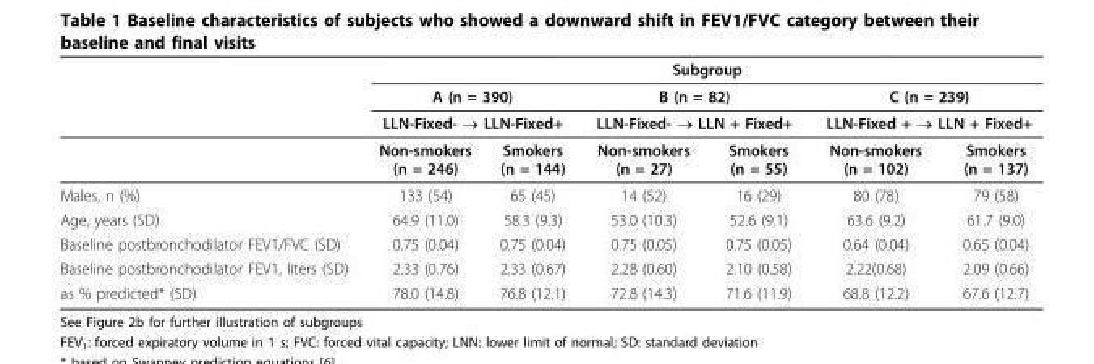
<table><thead><tr><td rowspan="4"></td><td colspan="6">Subgroup</td></tr><tr><td rowspan="2" colspan="2">A (n = 390) LLN-Fixed- → LLN-Fixed+</td><td rowspan="2" colspan="2">B (n = 82) LLN-Fixed- → LLN + Fixed+</td><td rowspan="2" colspan="2">C (n = 239) LLN-Fixed + → LLN + Fixed+</td></tr><tr></tr><tr><td>Non-smokers (n = 246)</td><td>Smokers (n = 144)</td><td>Non-smokers (n = 27)</td><td>Smokers (n = 55)</td><td>Non-smokers (n = 102)</td><td>Smokers (n = 137)</td></tr></thead><tbody><tr><td>Males, n (%)</td><td>133 (54)</td><td>65 (45)</td><td>14 (52)</td><td>16 (29)</td><td>80 (78)</td><td>79 (58)</td></tr><tr><td>Age, years (SD)</td><td>64.9 (11.0)</td><td>58.3 (9.3)</td><td>53.0 (10.3)</td><td>52.6 (9.1)</td><td>63.6 (9.2)</td><td>61.7 (9.0)</td></tr><tr><td>Baseline postbronchodilator FEV1/FVC (SD)</td><td>0.75 (0.04)</td><td>0.75 (0.04)</td><td>0.75 (0.05)</td><td>0.75 (0.05)</td><td>0.64 (0.04)</td><td>0.65 (0.04)</td></tr><tr><td>Baseline postbronchodilator FEV1, liters (SD)</td><td>2.33 (0.76)</td><td>2.33 (0.67)</td><td>2.28 (0.60)</td><td>2.10 (0.58)</td><td>2.22(0.68)</td><td>2.09 (0.66)</td></tr><tr><td>as % predicted* (SD)</td><td>78.0 (14.8)</td><td>76.8 (12.1)</td><td>72.8 (14.3)</td><td>71.6 (11.9)</td><td>68.8 (12.2)</td><td>67.6 (12.7)</td></tr></tbody></table>